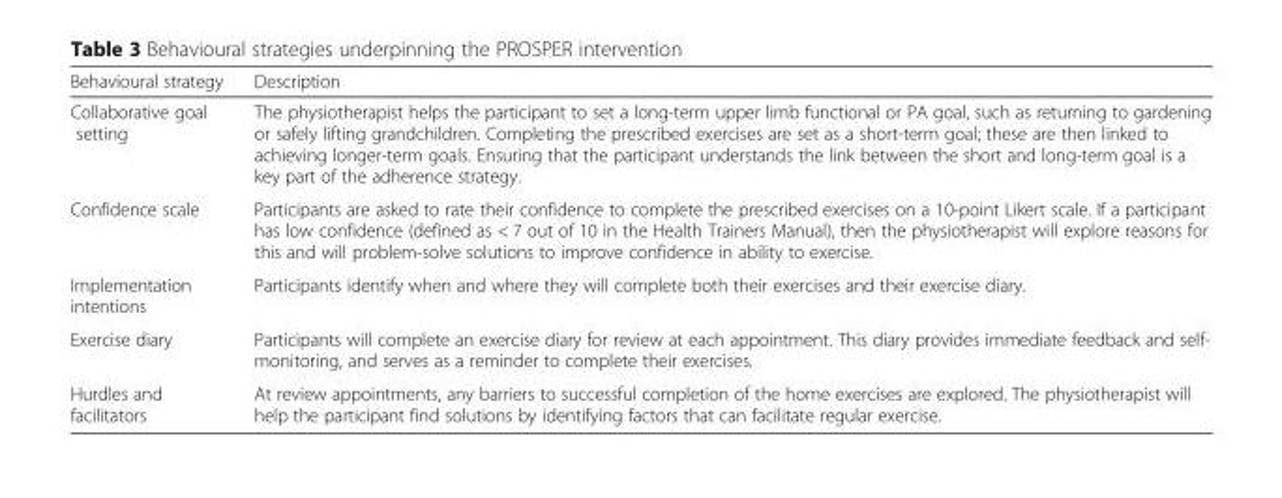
<table><thead><tr><td>Behavioural strategy</td><td>Description</td></tr></thead><tbody><tr><td>Collaborative goal setting</td><td>The physiotherapist helps the participant to set a long-term upper limb functional or PA goal, such as returning to gardening or safely lifting grandchildren. Completing the prescribed exercises are set as a short-term goal; these are then linked to achieving longer-term goals. Ensuring that the participant understands the link between the short and long-term goal is a key part of the adherence strategy.</td></tr><tr><td>Confidence scale</td><td>Participants are asked to rate their confidence to complete the prescribed exercises on a 10-point Likert scale. If a participant has low confidence (defined as &lt; 7 out of 10 in the Health Trainers Manual), then the physiotherapist will explore reasons for this and will problem-solve solutions to improve confidence in ability to exercise.</td></tr><tr><td>Implementation intentions</td><td>Participants identify when and where they will complete both their exercises and their exercise diary.</td></tr><tr><td>Exercise diary</td><td>Participants will complete an exercise diary for review at each appointment. This diary provides immediate feedback and self- monitoring, and serves as a reminder to complete their exercises.</td></tr><tr><td>Hurdles and facilitators</td><td>At review appointments, any barriers to successful completion of the home exercises are explored. The physiotherapist will help the participant find solutions by identifying factors that can facilitate regular exercise.</td></tr></tbody></table>